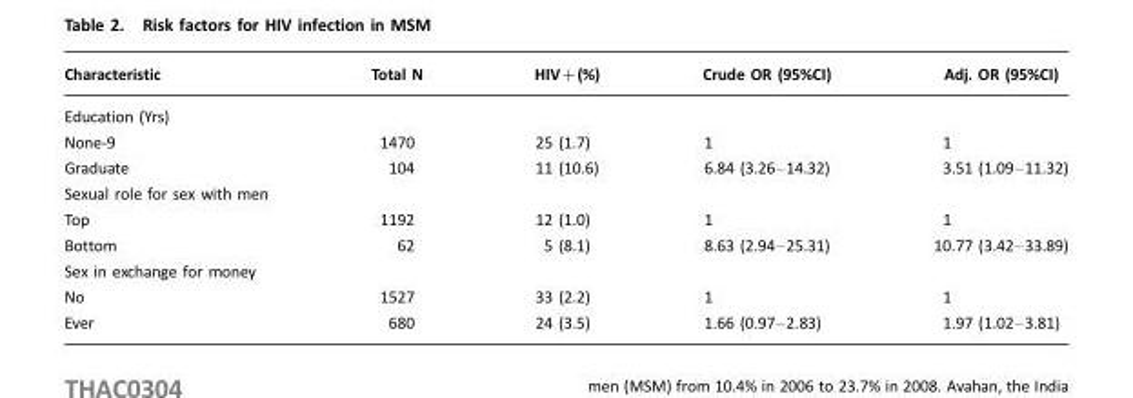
<table><thead><tr><td>Characteristic</td><td>Total N</td><td>HIV+(%)</td><td>Crude OR (95%CI)</td><td>Adj. OR (95%CI)</td></tr></thead><tbody><tr><td colspan="5">Education (Yrs)</td></tr><tr><td>None-9</td><td>1470</td><td>25 (1.7)</td><td>1</td><td>1</td></tr><tr><td>Graduate</td><td>104</td><td>11 (10.6)</td><td>6.84 (3.26–14.32)</td><td>3.51 (1.09–11.32)</td></tr><tr><td colspan="5">Sexual role for sex with men</td></tr><tr><td>Top</td><td>1192</td><td>12 (1.0)</td><td>1</td><td>1</td></tr><tr><td>Bottom</td><td>62</td><td>5 (8.1)</td><td>8.63 (2.94–25.31)</td><td>10.77 (3.42–33.89)</td></tr><tr><td colspan="5">Sex in exchange for money</td></tr><tr><td>No</td><td>1527</td><td>33 (2.2)</td><td>1</td><td>1</td></tr><tr><td>Ever</td><td>680</td><td>24 (3.5)</td><td>1.66 (0.97–2.83)</td><td>1.97 (1.02–3.81)</td></tr></tbody></table>